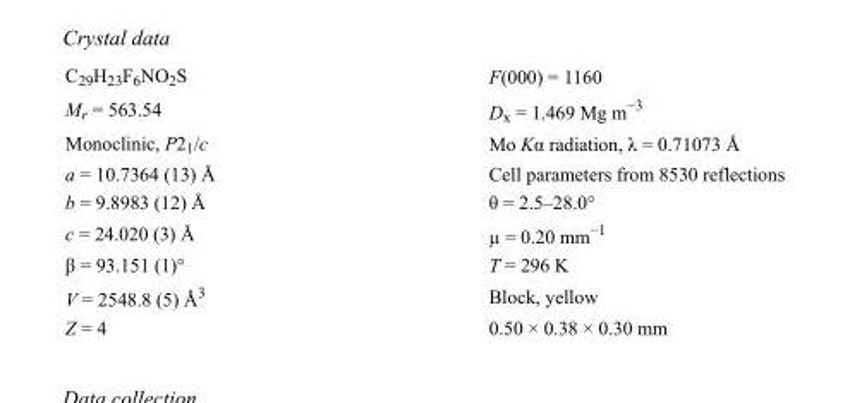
<table><tbody><tr><td>C<sub>29</sub>H<sub>23</sub>F<sub>6</sub>NO<sub>2</sub>S</td><td>F(000) = 1160</td></tr><tr><td>M<sub>r</sub> = 563.54</td><td>D<sub>x</sub> = 1.469 Mg m<sup>−3</sup></td></tr><tr><td>Monoclinic, P2<sub>1</sub>/c</td><td>Mo Kα radiation, λ = 0.71073 Å</td></tr><tr><td>a = 10.7364 (13) Å</td><td>Cell parameters from 8530 reflections</td></tr><tr><td>b = 9.8983 (12) Å</td><td>θ = 2.5–28.0°</td></tr><tr><td>c = 24.020 (3) Å</td><td>µ = 0.20 mm<sup>−1</sup></td></tr><tr><td>β = 93.151 (1)°</td><td>T = 296 K</td></tr><tr><td>V = 2548.8 (5) Å<sup>3</sup></td><td>Block, yellow</td></tr><tr><td>Z = 4</td><td>0.50 × 0.38 × 0.30 mm</td></tr></tbody></table>